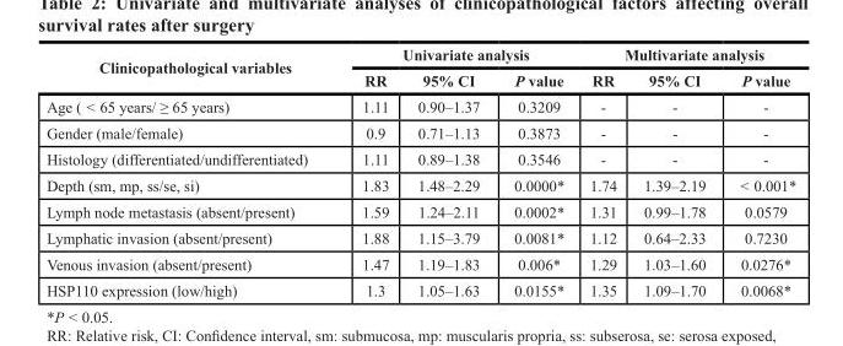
<table><thead><tr><td rowspan="2">Clinicopathological variables</td><td colspan="3">Univariate analysis</td><td colspan="3">Multivariate analysis</td></tr><tr><td>RR</td><td>95% CI</td><td>P value</td><td>RR</td><td>95% CI</td><td>P value</td></tr></thead><tbody><tr><td>Age ( &lt; 65 years/ ≥ 65 years)</td><td>1.11</td><td>0.90–1.37</td><td>0.3209</td><td>-</td><td>-</td><td>-</td></tr><tr><td>Gender (male/female)</td><td>0.9</td><td>0.71–1.13</td><td>0.3873</td><td>-</td><td>-</td><td>-</td></tr><tr><td>Histology (differentiated/undifferentiated)</td><td>1.11</td><td>0.89–1.38</td><td>0.3546</td><td>-</td><td>-</td><td>-</td></tr><tr><td>Depth (sm, mp, ss/se, si)</td><td>1.83</td><td>1.48–2.29</td><td>0.0000*</td><td>1.74</td><td>1.39–2.19</td><td>&lt; 0.001*</td></tr><tr><td>Lymph node metastasis (absent/present)</td><td>1.59</td><td>1.24–2.11</td><td>0.0002*</td><td>1.31</td><td>0.99–1.78</td><td>0.0579</td></tr><tr><td>Lymphatic invasion (absent/present)</td><td>1.88</td><td>1.15–3.79</td><td>0.0081*</td><td>1.12</td><td>0.64–2.33</td><td>0.7230</td></tr><tr><td>Venous invasion (absent/present)</td><td>1.47</td><td>1.19–1.83</td><td>0.006*</td><td>1.29</td><td>1.03–1.60</td><td>0.0276*</td></tr><tr><td>HSP110 expression (low/high)</td><td>1.3</td><td>1.05–1.63</td><td>0.0155*</td><td>1.35</td><td>1.09–1.70</td><td>0.0068*</td></tr></tbody></table>